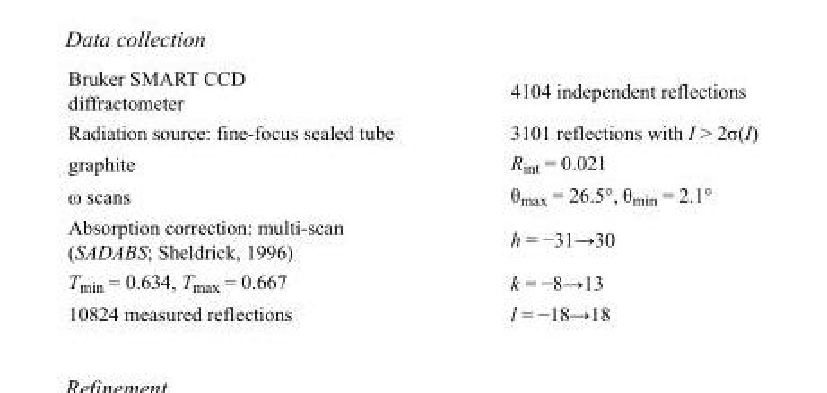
<table><tbody><tr><td>Bruker SMART CCD diffractometer</td><td>4104 independent reflections</td></tr><tr><td>Radiation source: fine-focus sealed tube</td><td>3101 reflections with I &gt; 2σ(I)</td></tr><tr><td>graphite</td><td>R<sub>int</sub> = 0.021</td></tr><tr><td>ω scans</td><td>θ<sub>max</sub> = 26.5°, θ<sub>min</sub> = 2.1°</td></tr><tr><td>Absorption correction: multi-scan (SADABS; Sheldrick, 1996)</td><td>h = −31→30</td></tr><tr><td>T<sub>min</sub> = 0.634, T<sub>max</sub> = 0.667</td><td>k = −8→13</td></tr><tr><td>10824 measured reflections</td><td>l = −18→18</td></tr></tbody></table>